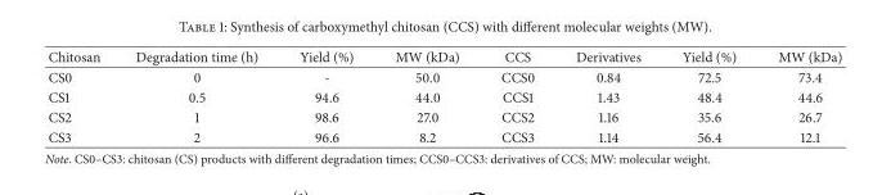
<table><thead><tr><td>Chitosan</td><td>Degradation time (h)</td><td>Yield (%)</td><td>MW (kDa)</td><td>CCS</td><td>Derivatives</td><td>Yield (%)</td><td>MW (kDa)</td></tr></thead><tbody><tr><td>CS0</td><td>0</td><td>-</td><td>50.0</td><td>CCS0</td><td>0.84</td><td>72.5</td><td>73.4</td></tr><tr><td>CS1</td><td>0.5</td><td>94.6</td><td>44.0</td><td>CCS1</td><td>1.43</td><td>48.4</td><td>44.6</td></tr><tr><td>CS2</td><td>1</td><td>98.6</td><td>27.0</td><td>CCS2</td><td>1.16</td><td>35.6</td><td>26.7</td></tr><tr><td>CS3</td><td>2</td><td>96.6</td><td>8.2</td><td>CCS3</td><td>1.14</td><td>56.4</td><td>12.1</td></tr></tbody></table>